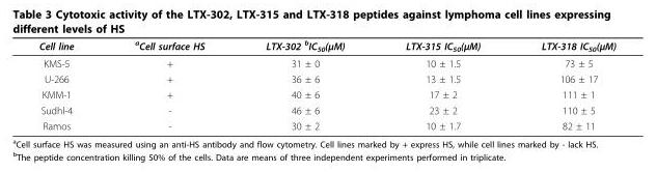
<table><thead><tr><td>Cell line</td><td><sup>a</sup>Cell surface HS</td><td>LTX-302 <sup>b</sup>IC<sub>50</sub>(μM)</td><td>LTX-315 IC<sub>50</sub>(μM)</td><td>LTX-318 IC<sub>50</sub>(μM)</td></tr></thead><tbody><tr><td>KMS-5</td><td>+</td><td>31 ± 0</td><td>10 ± 1.5</td><td>73 ± 5</td></tr><tr><td>U-266</td><td>+</td><td>36 ± 6</td><td>13 ± 1.5</td><td>106 ± 17</td></tr><tr><td>KMM-1</td><td>+</td><td>40 ± 6</td><td>17 ± 2</td><td>111 ± 1</td></tr><tr><td>Sudhl-4</td><td>-</td><td>46 ± 6</td><td>23 ± 2</td><td>110 ± 5</td></tr><tr><td>Ramos</td><td>-</td><td>30 ± 2</td><td>10 ± 1.7</td><td>82 ± 11</td></tr></tbody></table>